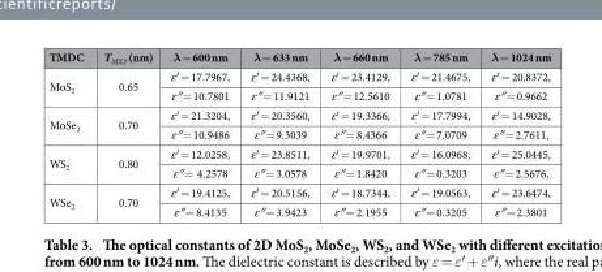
<table><thead><tr><td>TMDC</td><td>T<sub>MX2</sub> (nm)</td><td>λ = 600 nm</td><td>λ = 633 nm</td><td>λ = 660 nm</td><td>λ = 785 nm</td><td>λ = 1024 nm</td></tr></thead><tbody><tr><td rowspan="2">MoS<sub>2</sub></td><td rowspan="2">0.65</td><td>ɛ′ = 17.7967,</td><td>ɛ′ = 24.4368,</td><td>ɛ′ = 23.4129,</td><td>ɛ′ = 21.4675,</td><td>ɛ′ = 20.8372,</td></tr><tr><td>ɛ″ = 10.7801</td><td>ɛ″ = 11.9121</td><td>ɛ″ = 12.5610</td><td>ɛ″ = 1.0781</td><td>ɛ″ = 0.9662</td></tr><tr><td rowspan="2">MoSe<sub>2</sub></td><td rowspan="2">0.70</td><td>ɛ′ = 21.3204,</td><td>ɛ′ = 20.3560,</td><td>ɛ′ = 19.3366,</td><td>ɛ′ = 17.7994,</td><td>ɛ′ = 14.9028,</td></tr><tr><td>ɛ″ = 10.9486</td><td>ɛ″ = 9.3039</td><td>ɛ″ = 8.4366</td><td>ɛ″ = 7.0709</td><td>ɛ″ = 2.7611,</td></tr><tr><td rowspan="2">WS<sub>2</sub></td><td rowspan="2">0.80</td><td>ɛ′ = 12.0258,</td><td>ɛ′ = 23.8511,</td><td>ɛ′ = 19.9701,</td><td>ɛ′ = 16.0968,</td><td>ɛ′ = 25.0445,</td></tr><tr><td>ɛ″ = 4.2578</td><td>ɛ″ = 3.0578</td><td>ɛ″ = 1.8420</td><td>ɛ″ = 0.3203</td><td>ɛ″ = 2.5676,</td></tr><tr><td rowspan="2">WSe<sub>2</sub></td><td rowspan="2">0.70</td><td>ɛ′ = 19.4125,</td><td>ɛ′ = 20.5156,</td><td>ɛ′ = 18.7344,</td><td>ɛ′ = 19.0563,</td><td>ɛ′ = 23.6474,</td></tr><tr><td>ɛ″ = 8.4135</td><td>ɛ″ = 3.9423</td><td>ɛ″ = 2.1955</td><td>ɛ″ = 0.3205</td><td>ɛ″ = 2.3801</td></tr></tbody></table>